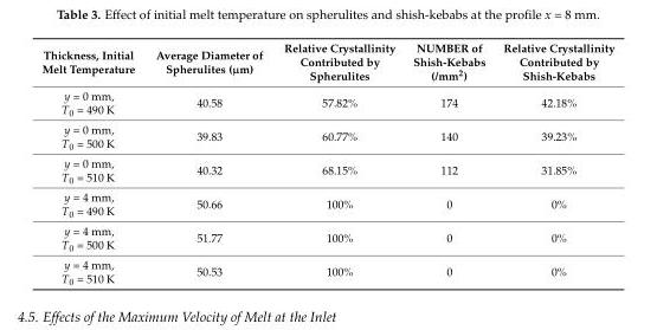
<table><thead><tr><td>Thickness, Initial Melt Temperature</td><td>Average Diameter of Spherulites (µm)</td><td>Relative Crystallinity Contributed by Spherulites</td><td>NUMBER of Shish-Kebabs (/mm<sup>2</sup>)</td><td>Relative Crystallinity Contributed by Shish-Kebabs</td></tr></thead><tbody><tr><td>y = 0 mm, T<sub>0</sub> = 490 K</td><td>40.58</td><td>57.82%</td><td>174</td><td>42.18%</td></tr><tr><td>y = 0 mm, T<sub>0</sub> = 500 K</td><td>39.83</td><td>60.77%</td><td>140</td><td>39.23%</td></tr><tr><td>y = 0 mm, T<sub>0</sub> = 510 K</td><td>40.32</td><td>68.15%</td><td>112</td><td>31.85%</td></tr><tr><td>y = 4 mm, T<sub>0</sub> = 490 K</td><td>50.66</td><td>100%</td><td>0</td><td>0%</td></tr><tr><td>y = 4 mm, T<sub>0</sub> = 500 K</td><td>51.77</td><td>100%</td><td>0</td><td>0%</td></tr><tr><td>y = 4 mm, T<sub>0</sub> = 510 K</td><td>50.53</td><td>100%</td><td>0</td><td>0%</td></tr></tbody></table>